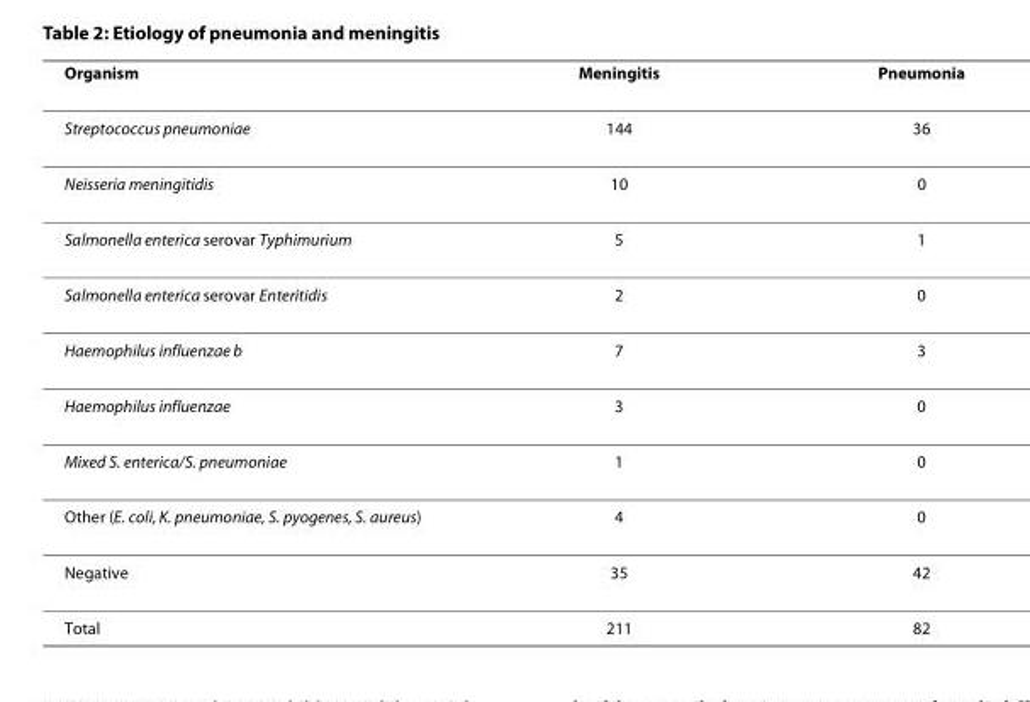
<table><thead><tr><td>Organism</td><td>Meningitis</td><td>Pneumonia</td></tr></thead><tbody><tr><td>Streptococcus pneumoniae</td><td>144</td><td>36</td></tr><tr><td>Neisseria meningitidis</td><td>10</td><td>0</td></tr><tr><td>Salmonella enterica serovar Typhimurium</td><td>5</td><td>1</td></tr><tr><td>Salmonella enterica serovar Enteritidis</td><td>2</td><td>0</td></tr><tr><td>Haemophilus influenzae b</td><td>7</td><td>3</td></tr><tr><td>Haemophilus influenzae</td><td>3</td><td>0</td></tr><tr><td>Mixed S. enterica/S. pneumoniae</td><td>1</td><td>0</td></tr><tr><td>Other (E. coli, K. pneumoniae, S. pyogenes, S. aureus)</td><td>4</td><td>0</td></tr><tr><td>Negative</td><td>35</td><td>42</td></tr><tr><td>Total</td><td>211</td><td>82</td></tr></tbody></table>